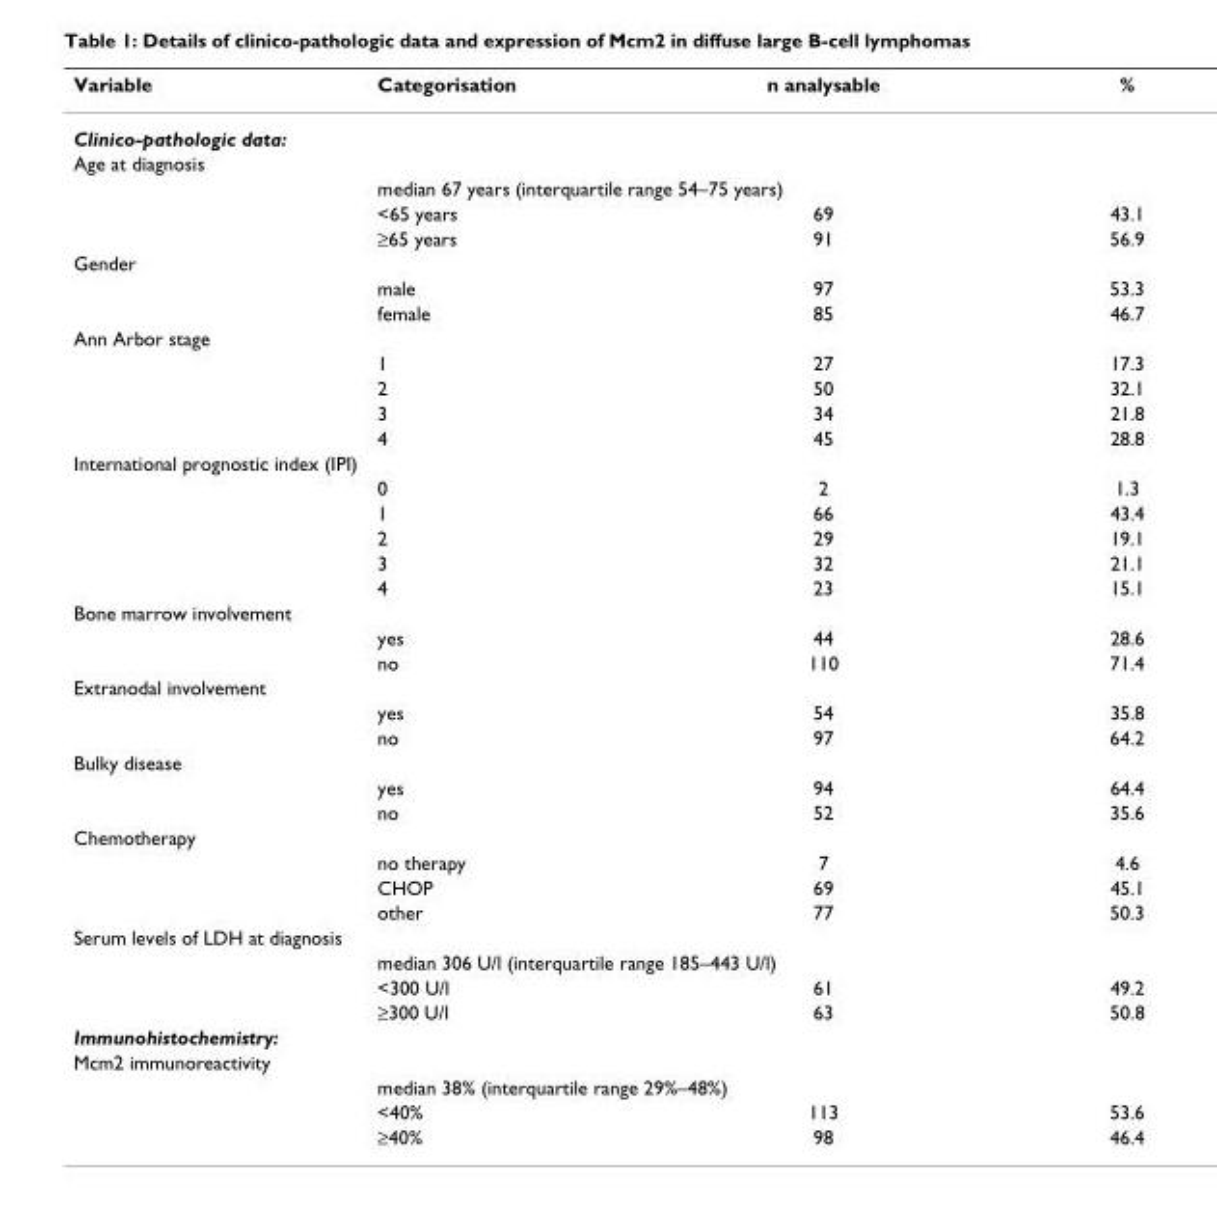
<table><thead><tr><td>Variable</td><td>Categorisation</td><td>n analysable</td><td>%</td></tr></thead><tbody><tr><td colspan="4">Clinico-pathologic data:</td></tr><tr><td colspan="4">Age at diagnosis</td></tr><tr><td></td><td colspan="3">median 67 years (interquartile range 54–75 years)</td></tr><tr><td></td><td>&lt;65 years</td><td>69</td><td>43.1</td></tr><tr><td></td><td>≥65 years</td><td>91</td><td>56.9</td></tr><tr><td colspan="4">Gender</td></tr><tr><td></td><td>male</td><td>97</td><td>53.3</td></tr><tr><td></td><td>female</td><td>85</td><td>46.7</td></tr><tr><td colspan="4">Ann Arbor stage</td></tr><tr><td></td><td>1</td><td>27</td><td>17.3</td></tr><tr><td></td><td>2</td><td>50</td><td>32.1</td></tr><tr><td></td><td>3</td><td>34</td><td>21.8</td></tr><tr><td></td><td>4</td><td>45</td><td>28.8</td></tr><tr><td colspan="4">International prognostic index (IPI)</td></tr><tr><td></td><td>0</td><td>2</td><td>1.3</td></tr><tr><td></td><td>1</td><td>66</td><td>43.4</td></tr><tr><td></td><td>2</td><td>29</td><td>19.1</td></tr><tr><td></td><td>3</td><td>32</td><td>21.1</td></tr><tr><td></td><td>4</td><td>23</td><td>15.1</td></tr><tr><td colspan="4">Bone marrow involvement</td></tr><tr><td></td><td>yes</td><td>44</td><td>28.6</td></tr><tr><td></td><td>no</td><td>110</td><td>71.4</td></tr><tr><td colspan="4">Extranodal involvement</td></tr><tr><td></td><td>yes</td><td>54</td><td>35.8</td></tr><tr><td></td><td>no</td><td>97</td><td>64.2</td></tr><tr><td colspan="4">Bulky disease</td></tr><tr><td></td><td>yes</td><td>94</td><td>64.4</td></tr><tr><td></td><td>no</td><td>52</td><td>35.6</td></tr><tr><td colspan="4">Chemotherapy</td></tr><tr><td></td><td>no therapy</td><td>7</td><td>4.6</td></tr><tr><td></td><td>CHOP</td><td>69</td><td>45.1</td></tr><tr><td></td><td>other</td><td>77</td><td>50.3</td></tr><tr><td colspan="4">Serum levels of LDH at diagnosis</td></tr><tr><td></td><td colspan="3">median 306 U/l (interquartile range 185–443 U/l)</td></tr><tr><td></td><td>&lt;300 U/l</td><td>61</td><td>49.2</td></tr><tr><td></td><td>≥300 U/l</td><td>63</td><td>50.8</td></tr><tr><td colspan="4">Immunohistochemistry:</td></tr><tr><td colspan="4">Mcm2 immunoreactivity</td></tr><tr><td></td><td colspan="3">median 38% (interquartile range 29%–48%)</td></tr><tr><td></td><td>&lt;40%</td><td>113</td><td>53.6</td></tr><tr><td></td><td>≥40%</td><td>98</td><td>46.4</td></tr></tbody></table>